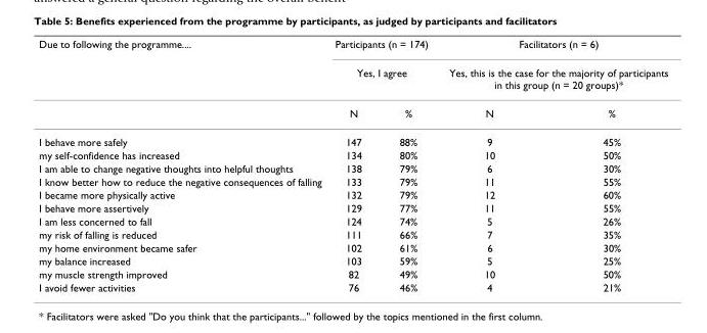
<table><thead><tr><td rowspan="3">Due to following the programme....</td><td rowspan="2" colspan="2">Participants (n = 174) Yes, I agree</td><td rowspan="2" colspan="2">Facilitators (n = 6) Yes, this is the case for the majority of participants in this group (n = 20 groups)*</td></tr><tr></tr><tr><td>N</td><td>%</td><td>N</td><td>%</td></tr></thead><tbody><tr><td>I behave more safely</td><td>147</td><td>88%</td><td>9</td><td>45%</td></tr><tr><td>my self-confidence has increased</td><td>134</td><td>80%</td><td>10</td><td>50%</td></tr><tr><td>I am able to change negative thoughts into helpful thoughts</td><td>138</td><td>79%</td><td>6</td><td>30%</td></tr><tr><td>I know better how to reduce the negative consequences of falling</td><td>133</td><td>79%</td><td>11</td><td>55%</td></tr><tr><td>I became more physically active</td><td>132</td><td>79%</td><td>12</td><td>60%</td></tr><tr><td>I behave more assertively</td><td>129</td><td>77%</td><td>11</td><td>55%</td></tr><tr><td>I am less concerned to fall</td><td>124</td><td>74%</td><td>5</td><td>26%</td></tr><tr><td>my risk of falling is reduced</td><td>111</td><td>66%</td><td>7</td><td>35%</td></tr><tr><td>my home environment became safer</td><td>102</td><td>61%</td><td>6</td><td>30%</td></tr><tr><td>my balance increased</td><td>103</td><td>59%</td><td>5</td><td>25%</td></tr><tr><td>my muscle strength improved</td><td>82</td><td>49%</td><td>10</td><td>50%</td></tr><tr><td>I avoid fewer activities</td><td>76</td><td>46%</td><td>4</td><td>21%</td></tr></tbody></table>